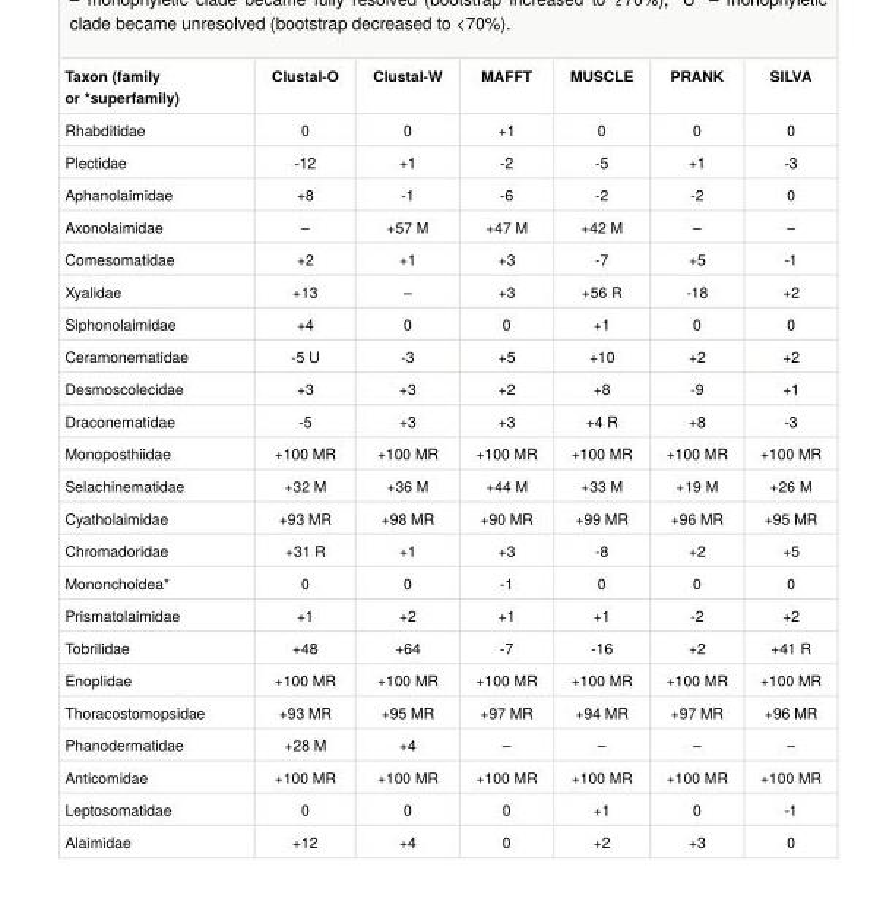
<table><tbody><tr><td>Taxon (family or *superfamily)</td><td>Clustal-O</td><td>Clustal-W</td><td>MAFFT</td><td>MUSCLE</td><td>PRANK</td><td>SILVA</td></tr><tr><td>Rhabditidae</td><td>0</td><td>0</td><td>+1</td><td>0</td><td>0</td><td>0</td></tr><tr><td>Plectidae</td><td>-12</td><td>+1</td><td>-2</td><td>-5</td><td>+1</td><td>-3</td></tr><tr><td>Aphanolaimidae</td><td>+8</td><td>-1</td><td>-6</td><td>-2</td><td>-2</td><td>0</td></tr><tr><td>Axonolaimidae</td><td>–</td><td>+57 M</td><td>+47 M</td><td>+42 M</td><td>–</td><td>–</td></tr><tr><td>Comesomatidae</td><td>+2</td><td>+1</td><td>+3</td><td>-7</td><td>+5</td><td>-1</td></tr><tr><td>Xyalidae</td><td>+13</td><td>–</td><td>+3</td><td>+56 R</td><td>-18</td><td>+2</td></tr><tr><td>Siphonolaimidae</td><td>+4</td><td>0</td><td>0</td><td>+1</td><td>0</td><td>0</td></tr><tr><td>Ceramonematidae</td><td>-5 U</td><td>-3</td><td>+5</td><td>+10</td><td>+2</td><td>+2</td></tr><tr><td>Desmoscolecidae</td><td>+3</td><td>+3</td><td>+2</td><td>+8</td><td>-9</td><td>+1</td></tr><tr><td>Draconematidae</td><td>-5</td><td>+3</td><td>+3</td><td>+4 R</td><td>+8</td><td>-3</td></tr><tr><td>Monoposthiidae</td><td>+100 MR</td><td>+100 MR</td><td>+100 MR</td><td>+100 MR</td><td>+100 MR</td><td>+100 MR</td></tr><tr><td>Selachinematidae</td><td>+32 M</td><td>+36 M</td><td>+44 M</td><td>+33 M</td><td>+19 M</td><td>+26 M</td></tr><tr><td>Cyatholaimidae</td><td>+93 MR</td><td>+98 MR</td><td>+90 MR</td><td>+99 MR</td><td>+96 MR</td><td>+95 MR</td></tr><tr><td>Chromadoridae</td><td>+31 R</td><td>+1</td><td>+3</td><td>-8</td><td>+2</td><td>+5</td></tr><tr><td>Mononchoidea*</td><td>0</td><td>0</td><td>-1</td><td>0</td><td>0</td><td>0</td></tr><tr><td>Prismatolaimidae</td><td>+1</td><td>+2</td><td>+1</td><td>+1</td><td>-2</td><td>+2</td></tr><tr><td>Tobrilidae</td><td>+48</td><td>+64</td><td>-7</td><td>-16</td><td>+2</td><td>+41 R</td></tr><tr><td>Enoplidae</td><td>+100 MR</td><td>+100 MR</td><td>+100 MR</td><td>+100 MR</td><td>+100 MR</td><td>+100 MR</td></tr><tr><td>Thoracostomopsidae</td><td>+93 MR</td><td>+95 MR</td><td>+97 MR</td><td>+94 MR</td><td>+97 MR</td><td>+96 MR</td></tr><tr><td>Phanodermatidae</td><td>+28 M</td><td>+4</td><td>–</td><td>–</td><td>–</td><td>–</td></tr><tr><td>Anticomidae</td><td>+100 MR</td><td>+100 MR</td><td>+100 MR</td><td>+100 MR</td><td>+100 MR</td><td>+100 MR</td></tr><tr><td>Leptosomatidae</td><td>0</td><td>0</td><td>0</td><td>+1</td><td>0</td><td>-1</td></tr><tr><td>Alaimidae</td><td>+12</td><td>+4</td><td>0</td><td>+2</td><td>+3</td><td>0</td></tr></tbody></table>